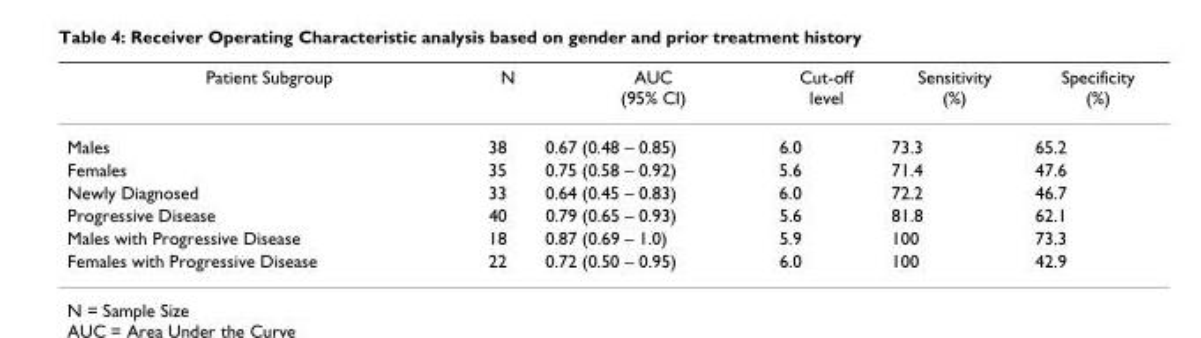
<table><thead><tr><td>Patient Subgroup</td><td>N</td><td>AUC (95% CI)</td><td>Cut-off level</td><td>Sensitivity (%)</td><td>Specificity (%)</td></tr></thead><tbody><tr><td>Males</td><td>38</td><td>0.67 (0.48 – 0.85)</td><td>6.0</td><td>73.3</td><td>65.2</td></tr><tr><td>Females</td><td>35</td><td>0.75 (0.58 – 0.92)</td><td>5.6</td><td>71.4</td><td>47.6</td></tr><tr><td>Newly Diagnosed</td><td>33</td><td>0.64 (0.45 – 0.83)</td><td>6.0</td><td>72.2</td><td>46.7</td></tr><tr><td>Progressive Disease</td><td>40</td><td>0.79 (0.65 – 0.93)</td><td>5.6</td><td>81.8</td><td>62.1</td></tr><tr><td>Males with Progressive Disease</td><td>18</td><td>0.87 (0.69 – 1.0)</td><td>5.9</td><td>100</td><td>73.3</td></tr><tr><td>Females with Progressive Disease</td><td>22</td><td>0.72 (0.50 – 0.95)</td><td>6.0</td><td>100</td><td>42.9</td></tr></tbody></table>